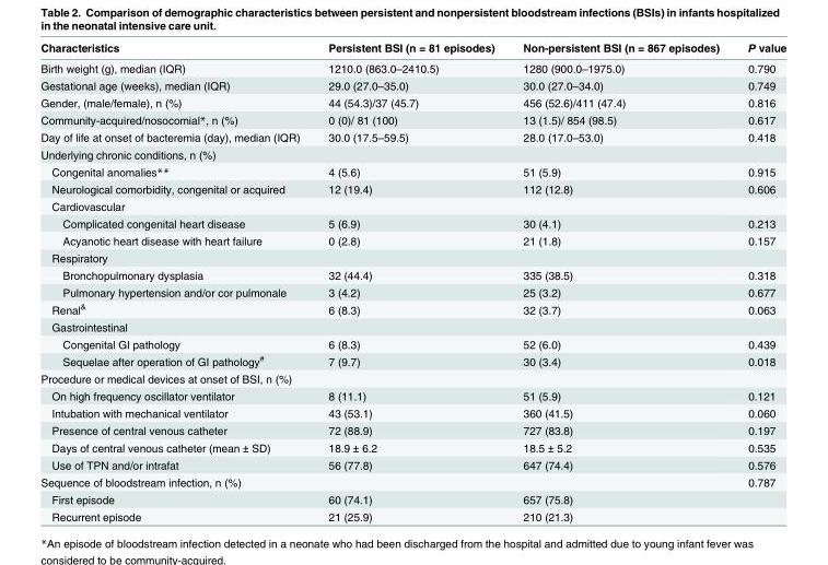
<table><thead><tr><td>Characteristics</td><td>Persistent BSI (n = 81 episodes)</td><td>Non-persistent BSI (n = 867 episodes)</td><td>P value</td></tr></thead><tbody><tr><td>Birth weight (g), median (IQR)</td><td>1210.0 (863.0–2410.5)</td><td>1280 (900.0–1975.0)</td><td>0.790</td></tr><tr><td>Gestational age (weeks), median (IQR)</td><td>29.0 (27.0–35.0)</td><td>30.0 (27.0–34.0)</td><td>0.749</td></tr><tr><td>Gender, (male/female), n (%)</td><td>44 (54.3)/37 (45.7)</td><td>456 (52.6)/411 (47.4)</td><td>0.816</td></tr><tr><td>Community-acquired/nosocomial*, n (%)</td><td>0 (0)/ 81 (100)</td><td>13 (1.5)/ 854 (98.5)</td><td>0.617</td></tr><tr><td>Day of life at onset of bacteremia (day), median (IQR)</td><td>30.0 (17.5–59.5)</td><td>28.0 (17.0–53.0)</td><td>0.418</td></tr><tr><td colspan="4">Underlying chronic conditions, n (%)</td></tr><tr><td>Congenital anomalies**</td><td>4 (5.6)</td><td>51 (5.9)</td><td>0.915</td></tr><tr><td>Neurological comorbidity, congenital or acquired</td><td>12 (19.4)</td><td>112 (12.8)</td><td>0.606</td></tr><tr><td colspan="4">Cardiovascular</td></tr><tr><td>Complicated congenital heart disease</td><td>5 (6.9)</td><td>30 (4.1)</td><td>0.213</td></tr><tr><td>Acyanotic heart disease with heart failure</td><td>0 (2.8)</td><td>21 (1.8)</td><td>0.157</td></tr><tr><td colspan="4">Respiratory</td></tr><tr><td>Bronchopulmonary dysplasia</td><td>32 (44.4)</td><td>335 (38.5)</td><td>0.318</td></tr><tr><td>Pulmonary hypertension and/or cor pulmonale</td><td>3 (4.2)</td><td>25 (3.2)</td><td>0.677</td></tr><tr><td>Renal<sup>&amp;</sup></td><td>6 (8.3)</td><td>32 (3.7)</td><td>0.063</td></tr><tr><td colspan="4">Gastrointestinal</td></tr><tr><td>Congenital GI pathology</td><td>6 (8.3)</td><td>52 (6.0)</td><td>0.439</td></tr><tr><td>Sequelae after operation of GI pathology<sup>#</sup></td><td>7 (9.7)</td><td>30 (3.4)</td><td>0.018</td></tr><tr><td colspan="4">Procedure or medical devices at onset of BSI, n (%)</td></tr><tr><td>On high frequency oscillator ventilator</td><td>8 (11.1)</td><td>51 (5.9)</td><td>0.121</td></tr><tr><td>Intubation with mechanical ventilator</td><td>43 (53.1)</td><td>360 (41.5)</td><td>0.060</td></tr><tr><td>Presence of central venous catheter</td><td>72 (88.9)</td><td>727 (83.8)</td><td>0.197</td></tr><tr><td>Days of central venous catheter (mean ± SD)</td><td>18.9 ± 6.2</td><td>18.5 ± 5.2</td><td>0.535</td></tr><tr><td>Use of TPN and/or intrafat</td><td>56 (77.8)</td><td>647 (74.4)</td><td>0.576</td></tr><tr><td>Sequence of bloodstream infection, n (%)</td><td></td><td></td><td>0.787</td></tr><tr><td>First episode</td><td>60 (74.1)</td><td>657 (75.8)</td><td></td></tr><tr><td>Recurrent episode</td><td>21 (25.9)</td><td>210 (21.3)</td><td></td></tr></tbody></table>